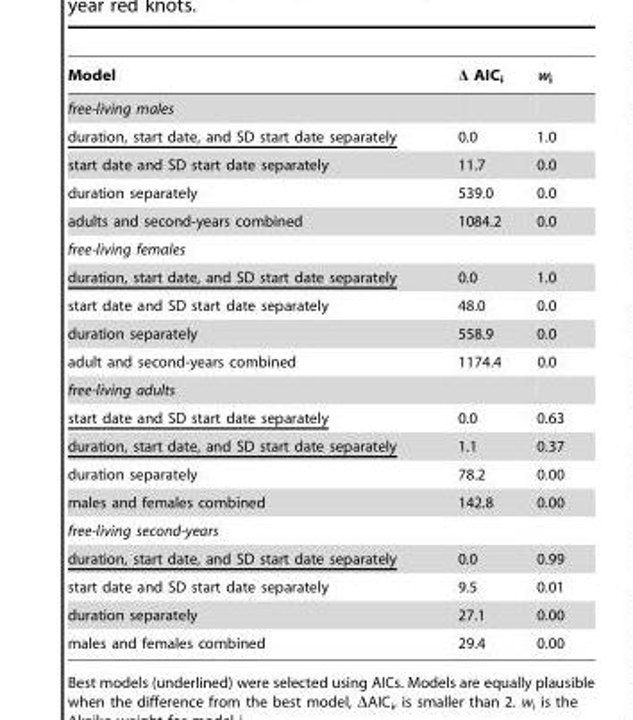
<table><thead><tr><td>Model</td><td>Δ AIC<sub>i</sub></td><td>w<sub>i</sub></td></tr></thead><tbody><tr><td colspan="3">free-living males</td></tr><tr><td>duration, start date, and SD start date separately</td><td>0.0</td><td>1.0</td></tr><tr><td>start date and SD start date separately</td><td>11.7</td><td>0.0</td></tr><tr><td>duration separately</td><td>539.0</td><td>0.0</td></tr><tr><td>adults and second-years combined</td><td>1084.2</td><td>0.0</td></tr><tr><td colspan="3">free-living females</td></tr><tr><td>duration, start date, and SD start date separately</td><td>0.0</td><td>1.0</td></tr><tr><td>start date and SD start date separately</td><td>48.0</td><td>0.0</td></tr><tr><td>duration separately</td><td>558.9</td><td>0.0</td></tr><tr><td>adult and second-years combined</td><td>1174.4</td><td>0.0</td></tr><tr><td colspan="3">free-living adults</td></tr><tr><td>start date and SD start date separately</td><td>0.0</td><td>0.63</td></tr><tr><td>duration, start date, and SD start date separately</td><td>1.1</td><td>0.37</td></tr><tr><td>duration separately</td><td>78.2</td><td>0.00</td></tr><tr><td>males and females combined</td><td>142.8</td><td>0.00</td></tr><tr><td colspan="3">free-living second-years</td></tr><tr><td>duration, start date, and SD start date separately</td><td>0.0</td><td>0.99</td></tr><tr><td>start date and SD start date separately</td><td>9.5</td><td>0.01</td></tr><tr><td>duration separately</td><td>27.1</td><td>0.00</td></tr><tr><td>males and females combined</td><td>29.4</td><td>0.00</td></tr></tbody></table>